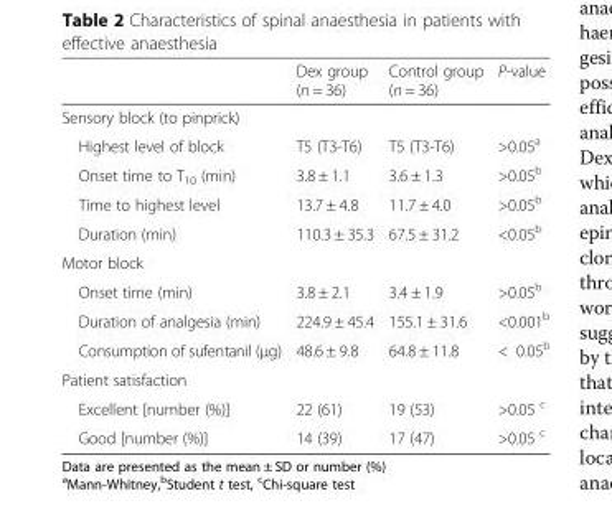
<table><thead><tr><td></td><td>Dex group (n = 36)</td><td>Control group (n = 36)</td><td>P-value</td></tr></thead><tbody><tr><td colspan="4">Sensory block (to pinprick)</td></tr><tr><td>Highest level of block</td><td>T5 (T3-T6)</td><td>T5 (T3-T6)</td><td>&gt;0.05<sup>a</sup></td></tr><tr><td>Onset time to T<sub>10</sub> (min)</td><td>3.8 ± 1.1</td><td>3.6 ± 1.3</td><td>&gt;0.05<sup>b</sup></td></tr><tr><td>Time to highest level</td><td>13.7 ± 4.8</td><td>11.7 ± 4.0</td><td>&gt;0.05<sup>b</sup></td></tr><tr><td>Duration (min)</td><td>110.3 ± 35.3</td><td>67.5 ± 31.2</td><td>&lt;0.05<sup>b</sup></td></tr><tr><td colspan="4">Motor block</td></tr><tr><td>Onset time (min)</td><td>3.8 ± 2.1</td><td>3.4 ± 1.9</td><td>&gt;0.05<sup>b</sup></td></tr><tr><td>Duration of analgesia (min)</td><td>224.9 ± 45.4</td><td>155.1 ± 31.6</td><td>&lt;0.001<sup>b</sup></td></tr><tr><td>Consumption of sufentanil (μg)</td><td>48.6 ± 9.8</td><td>64.8 ± 11.8</td><td>&lt; 0.05<sup>b</sup></td></tr><tr><td colspan="4">Patient satisfaction</td></tr><tr><td>Excellent [number (%)]</td><td>22 (61)</td><td>19 (53)</td><td>&gt;0.05 <sup>c</sup></td></tr><tr><td>Good [number (%)]</td><td>14 (39)</td><td>17 (47)</td><td>&gt;0.05 <sup>c</sup></td></tr></tbody></table>